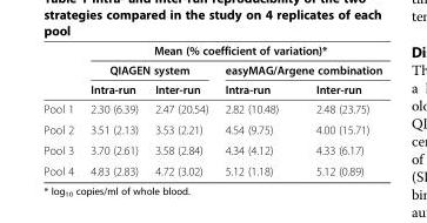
<table><thead><tr><td rowspan="3"></td><td colspan="4">Mean (% coefficient of variation)*</td></tr><tr><td colspan="2">QIAGEN system</td><td colspan="2">easyMAG/Argene combination</td></tr><tr><td>Intra-run</td><td>Inter-run</td><td>Intra-run</td><td>Inter-run</td></tr></thead><tbody><tr><td>Pool 1</td><td>2.30 (6.39)</td><td>2.47 (20.54)</td><td>2.82 (10.48)</td><td>2.48 (23.75)</td></tr><tr><td>Pool 2</td><td>3.51 (2.13)</td><td>3.53 (2.21)</td><td>4.54 (9.75)</td><td>4.00 (15.71)</td></tr><tr><td>Pool 3</td><td>3.70 (2.61)</td><td>3.58 (2.84)</td><td>4.34 (4.12)</td><td>4.33 (6.17)</td></tr><tr><td>Pool 4</td><td>4.83 (2.83)</td><td>4.72 (3.02)</td><td>5.12 (1.18)</td><td>5.12 (0.89)</td></tr></tbody></table>